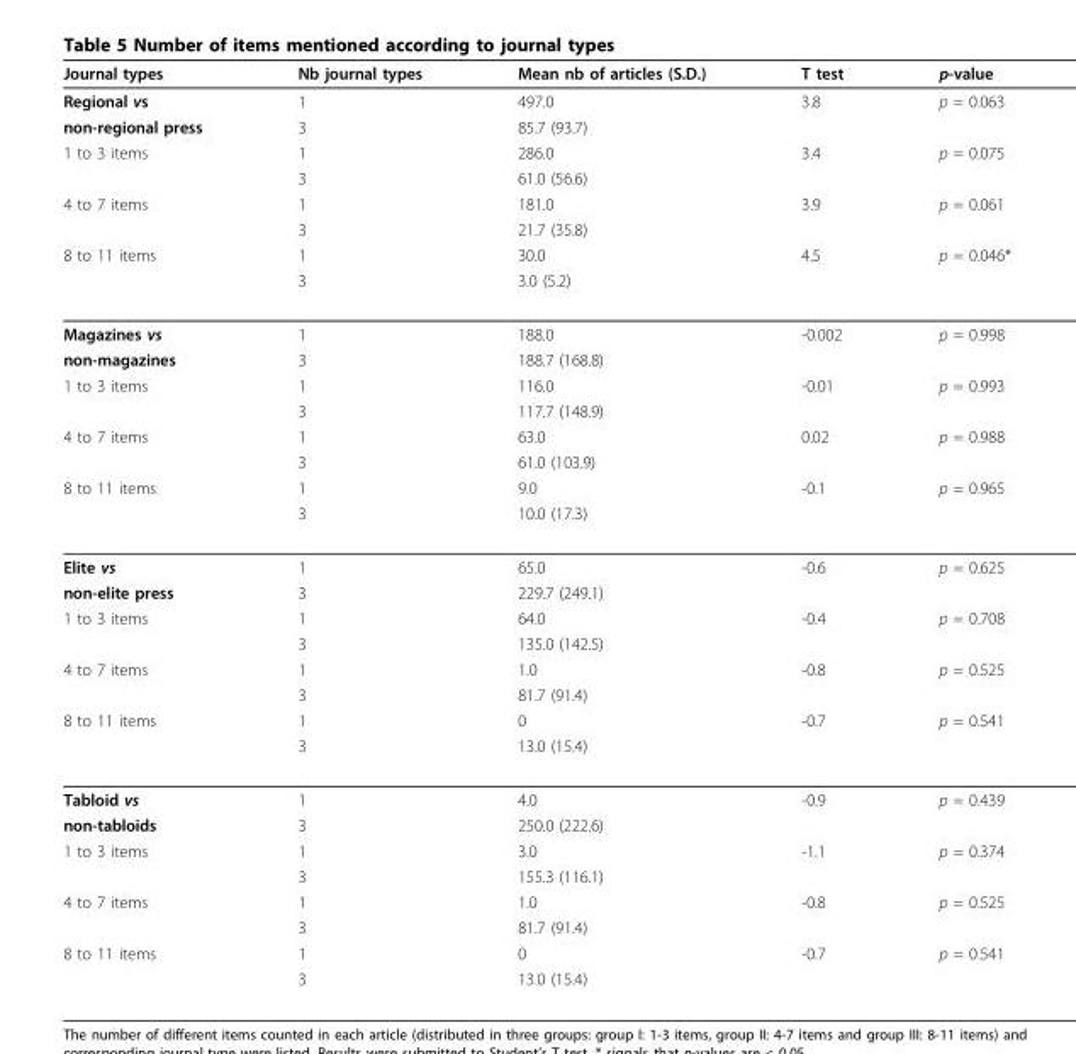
<table><thead><tr><td>Journal types</td><td>Nb journal types</td><td>Mean nb of articles (S.D.)</td><td>T test</td><td>p-value</td></tr></thead><tbody><tr><td>Regional vs</td><td>1</td><td>497.0</td><td>3.8</td><td>p = 0.063</td></tr><tr><td>non-regional press</td><td>3</td><td>85.7 (93.7)</td><td></td><td></td></tr><tr><td rowspan="2">1 to 3 items</td><td>1</td><td>286.0</td><td>3.4</td><td>p = 0.075</td></tr><tr><td>3</td><td>61.0 (56.6)</td><td></td><td></td></tr><tr><td rowspan="2">4 to 7 items</td><td>1</td><td>181.0</td><td>3.9</td><td>p = 0.061</td></tr><tr><td>3</td><td>21.7 (35.8)</td><td></td><td></td></tr><tr><td rowspan="2">8 to 11 items</td><td>1</td><td>30.0</td><td>4.5</td><td>p = 0.046*</td></tr><tr><td>3</td><td>3.0 (5.2)</td><td></td><td></td></tr><tr><td>Magazines vs</td><td>1</td><td>188.0</td><td>-0.002</td><td>p = 0.998</td></tr><tr><td>non-magazines</td><td>3</td><td>188.7 (168.8)</td><td></td><td></td></tr><tr><td rowspan="2">1 to 3 items</td><td>1</td><td>116.0</td><td>-0.01</td><td>p = 0.993</td></tr><tr><td>3</td><td>117.7 (148.9)</td><td></td><td></td></tr><tr><td rowspan="2">4 to 7 items</td><td>1</td><td>63.0</td><td>0.02</td><td>p = 0.988</td></tr><tr><td>3</td><td>61.0 (103.9)</td><td></td><td></td></tr><tr><td rowspan="2">8 to 11 items</td><td>1</td><td>9.0</td><td>-0.1</td><td>p = 0.965</td></tr><tr><td>3</td><td>10.0 (17.3)</td><td></td><td></td></tr><tr><td>Elite vs</td><td>1</td><td>65.0</td><td>-0.6</td><td>p = 0.625</td></tr><tr><td>non-elite press</td><td>3</td><td>229.7 (249.1)</td><td></td><td></td></tr><tr><td rowspan="2">1 to 3 items</td><td>1</td><td>64.0</td><td>-0.4</td><td>p = 0.708</td></tr><tr><td>3</td><td>135.0 (142.5)</td><td></td><td></td></tr><tr><td rowspan="2">4 to 7 items</td><td>1</td><td>1.0</td><td>-0.8</td><td>p = 0.525</td></tr><tr><td>3</td><td>81.7 (91.4)</td><td></td><td></td></tr><tr><td rowspan="2">8 to 11 items</td><td>1</td><td>0</td><td>-0.7</td><td>p = 0.541</td></tr><tr><td>3</td><td>13.0 (15.4)</td><td></td><td></td></tr><tr><td>Tabloid vs</td><td>1</td><td>4.0</td><td>-0.9</td><td>p = 0.439</td></tr><tr><td>non-tabloids</td><td>3</td><td>250.0 (222.6)</td><td></td><td></td></tr><tr><td rowspan="2">1 to 3 items</td><td>1</td><td>3.0</td><td>-1.1</td><td>p = 0.374</td></tr><tr><td>3</td><td>155.3 (116.1)</td><td></td><td></td></tr><tr><td rowspan="2">4 to 7 items</td><td>1</td><td>1.0</td><td>-0.8</td><td>p = 0.525</td></tr><tr><td>3</td><td>81.7 (91.4)</td><td></td><td></td></tr><tr><td rowspan="2">8 to 11 items</td><td>1</td><td>0</td><td>-0.7</td><td>p = 0.541</td></tr><tr><td>3</td><td>13.0 (15.4)</td><td></td><td></td></tr></tbody></table>